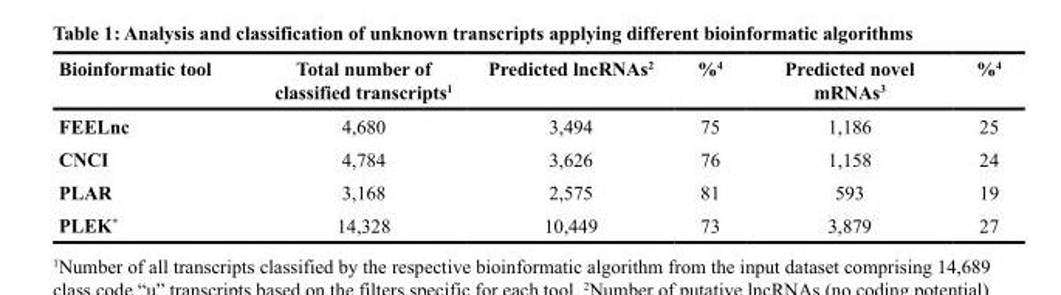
<table><thead><tr><td>Bioinformatic tool</td><td>Total number of classified transcripts<sup>1</sup></td><td>Predicted lncRNAs<sup>2</sup></td><td>%<sup>4</sup></td><td>Predicted novel mRNAs<sup>3</sup></td><td>%<sup>4</sup></td></tr></thead><tbody><tr><td>FEELnc</td><td>4,680</td><td>3,494</td><td>75</td><td>1,186</td><td>25</td></tr><tr><td>CNCI</td><td>4,784</td><td>3,626</td><td>76</td><td>1,158</td><td>24</td></tr><tr><td>PLAR</td><td>3,168</td><td>2,575</td><td>81</td><td>593</td><td>19</td></tr><tr><td>PLEK*</td><td>14,328</td><td>10,449</td><td>73</td><td>3,879</td><td>27</td></tr></tbody></table>